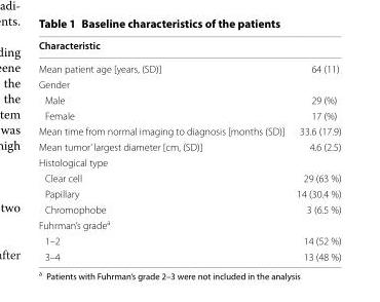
<table><thead><tr><td>Characteristic</td><td></td></tr></thead><tbody><tr><td>Mean patient age [years, (SD)]</td><td>64 (11)</td></tr><tr><td colspan="2">Gender</td></tr><tr><td>Male</td><td>29 (%)</td></tr><tr><td>Female</td><td>17 (%)</td></tr><tr><td>Mean time from normal imaging to diagnosis [months (SD)]</td><td>33.6 (17.9)</td></tr><tr><td>Mean tumor’ largest diameter [cm, (SD)]</td><td>4.6 (2.5)</td></tr><tr><td colspan="2">Histological type</td></tr><tr><td>Clear cell</td><td>29 (63 %)</td></tr><tr><td>Papillary</td><td>14 (30.4 %)</td></tr><tr><td>Chromophobe</td><td>3 (6.5 %)</td></tr><tr><td colspan="2">Fuhrman’s grade<sup>a</sup></td></tr><tr><td>1–2</td><td>14 (52 %)</td></tr><tr><td>3–4</td><td>13 (48 %)</td></tr></tbody></table>